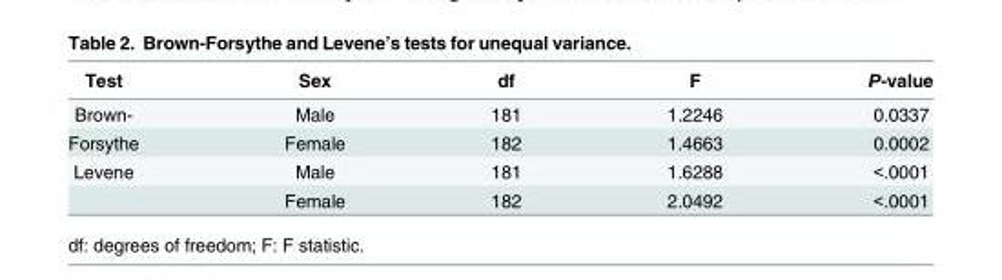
<table><thead><tr><td>Test</td><td>Sex</td><td>df</td><td>F</td><td>P-value</td></tr></thead><tbody><tr><td>Brown-</td><td>Male</td><td>181</td><td>1.2246</td><td>0.0337</td></tr><tr><td>Forsythe</td><td>Female</td><td>182</td><td>1.4663</td><td>0.0002</td></tr><tr><td rowspan="2">Levene</td><td>Male</td><td>181</td><td>1.6288</td><td>&lt;.0001</td></tr><tr><td>Female</td><td>182</td><td>2.0492</td><td>&lt;.0001</td></tr></tbody></table>